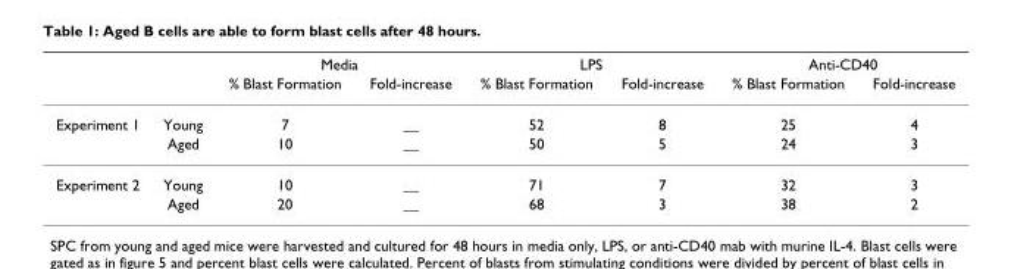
<table><thead><tr><td rowspan="2"></td><td rowspan="2"></td><td colspan="2">Media</td><td colspan="2">LPS</td><td colspan="2">Anti-CD40</td></tr><tr><td>% Blast Formation</td><td>Fold-increase</td><td>% Blast Formation</td><td>Fold-increase</td><td>% Blast Formation</td><td>Fold-increase</td></tr></thead><tbody><tr><td rowspan="2">Experiment 1</td><td>Young</td><td>7</td><td>__</td><td>52</td><td>8</td><td>25</td><td>4</td></tr><tr><td>Aged</td><td>10</td><td>__</td><td>50</td><td>5</td><td>24</td><td>3</td></tr><tr><td rowspan="2">Experiment 2</td><td>Young</td><td>10</td><td>__</td><td>71</td><td>7</td><td>32</td><td>3</td></tr><tr><td>Aged</td><td>20</td><td>__</td><td>68</td><td>3</td><td>38</td><td>2</td></tr></tbody></table>